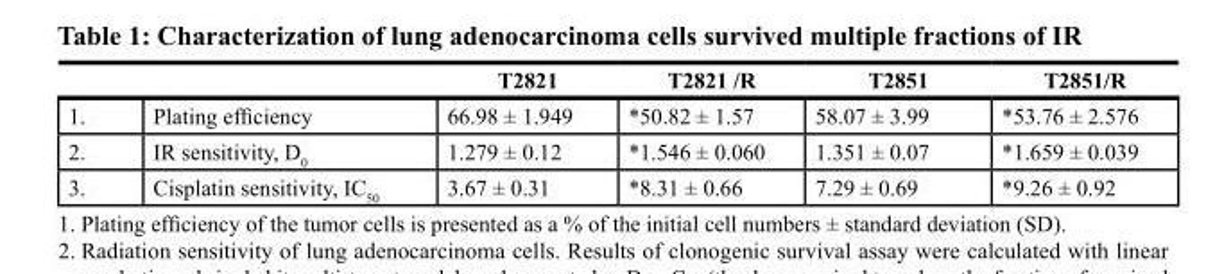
<table><thead><tr><td></td><td></td><td>t2821</td><td>t2821 /r</td><td>t2851</td><td>t2851/r</td></tr></thead><tbody><tr><td>1.</td><td>Plating efficiency</td><td>66.98 ± 1.949</td><td>*50.82 ± 1.57</td><td>58.07 ± 3.99</td><td>*53.76 ± 2.576</td></tr><tr><td>2.</td><td>IR sensitivity, D<sub>0</sub></td><td>1.279 ± 0.12</td><td>*1.546 ± 0.060</td><td>1.351 ± 0.07</td><td>*1.659 ± 0.039</td></tr><tr><td>3.</td><td>Cisplatin sensitivity, IC<sub>50</sub></td><td>3.67 ± 0.31</td><td>*8.31 ± 0.66</td><td>7.29 ± 0.69</td><td>*9.26 ± 0.92</td></tr></tbody></table>